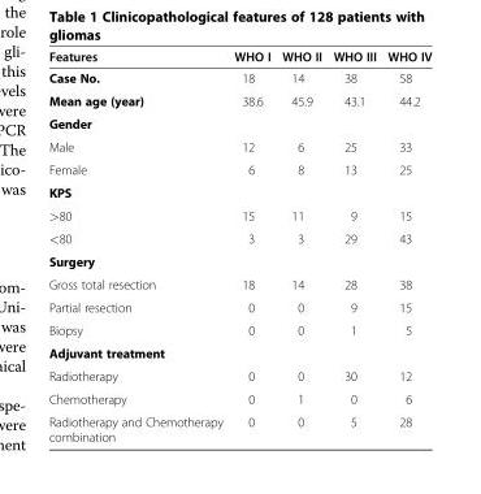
<table><thead><tr><td>Features</td><td>WHO I</td><td>WHO II</td><td>WHO III</td><td>WHO IV</td></tr></thead><tbody><tr><td>Case No.</td><td>18</td><td>14</td><td>38</td><td>58</td></tr><tr><td>Mean age (year)</td><td>38.6</td><td>45.9</td><td>43.1</td><td>44.2</td></tr><tr><td colspan="5">Gender</td></tr><tr><td>Male</td><td>12</td><td>6</td><td>25</td><td>33</td></tr><tr><td>Female</td><td>6</td><td>8</td><td>13</td><td>25</td></tr><tr><td colspan="5">KPS</td></tr><tr><td>&gt;80</td><td>15</td><td>11</td><td>9</td><td>15</td></tr><tr><td>&lt;80</td><td>3</td><td>3</td><td>29</td><td>43</td></tr><tr><td colspan="5">Surgery</td></tr><tr><td>Gross total resection</td><td>18</td><td>14</td><td>28</td><td>38</td></tr><tr><td>Partial resection</td><td>0</td><td>0</td><td>9</td><td>15</td></tr><tr><td>Biopsy</td><td>0</td><td>0</td><td>1</td><td>5</td></tr><tr><td colspan="5">Adjuvant treatment</td></tr><tr><td>Radiotherapy</td><td>0</td><td>0</td><td>30</td><td>12</td></tr><tr><td>Chemotherapy</td><td>0</td><td>1</td><td>0</td><td>6</td></tr><tr><td>Radiotherapy and Chemotherapy combination</td><td>0</td><td>0</td><td>5</td><td>28</td></tr></tbody></table>